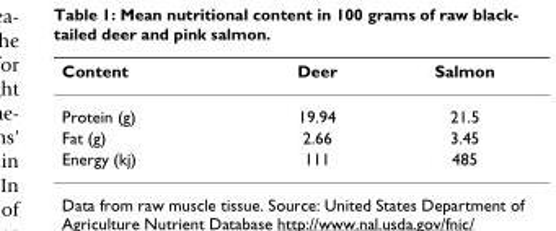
<table><thead><tr><td>Content</td><td>Deer</td><td>Salmon</td></tr></thead><tbody><tr><td>Protein (g)</td><td>19.94</td><td>21.5</td></tr><tr><td>Fat (g)</td><td>2.66</td><td>3.45</td></tr><tr><td>Energy (kj)</td><td>111</td><td>485</td></tr></tbody></table>